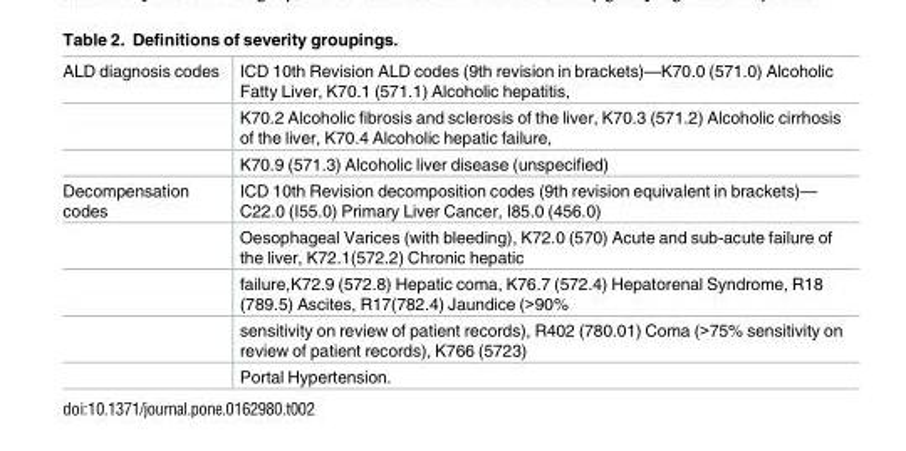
<table><tbody><tr><td rowspan="3">ALD diagnosis codes</td><td>ICD 10th Revision ALD codes (9th revision in brackets)—K70.0 (571.0) Alcoholic Fatty Liver, K70.1 (571.1) Alcoholic hepatitis,</td></tr><tr><td>K70.2 Alcoholic fibrosis and sclerosis of the liver, K70.3 (571.2) Alcoholic cirrhosis of the liver, K70.4 Alcoholic hepatic failure,</td></tr><tr><td>K70.9 (571.3) Alcoholic liver disease (unspecified)</td></tr><tr><td rowspan="5">Decompensation codes</td><td>ICD 10th Revision decomposition codes (9th revision equivalent in brackets)— C22.0 (I55.0) Primary Liver Cancer, I85.0 (456.0)</td></tr><tr><td>Oesophageal Varices (with bleeding), K72.0 (570) Acute and sub-acute failure of the liver, K72.1(572.2) Chronic hepatic</td></tr><tr><td>failure,K72.9 (572.8) Hepatic coma, K76.7 (572.4) Hepatorenal Syndrome, R18 (789.5) Ascites, R17(782.4) Jaundice (&gt;90%</td></tr><tr><td>sensitivity on review of patient records), R402 (780.01) Coma (&gt;75% sensitivity on review of patient records), K766 (5723)</td></tr><tr><td>Portal Hypertension.</td></tr></tbody></table>